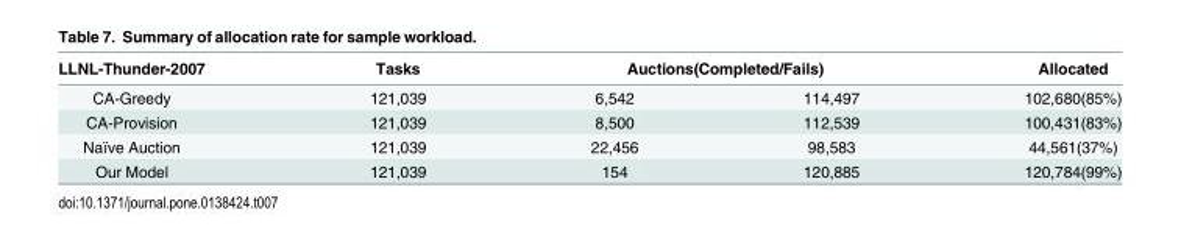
<table><thead><tr><td rowspan="2">LLNL-Thunder-2007 CA-Greedy</td><td rowspan="2">Tasks 121,039</td><td colspan="2">Auctions(Completed/Fails)</td><td rowspan="2">Allocated 102,680(85%)</td></tr><tr><td>6,542</td><td>114,497</td></tr></thead><tbody><tr><td>CA-Provision</td><td>121,039</td><td>8,500</td><td>112,539</td><td>100,431(83%)</td></tr><tr><td>Naïve Auction</td><td>121,039</td><td>22,456</td><td>98,583</td><td>44,561(37%)</td></tr><tr><td>Our Model</td><td>121,039</td><td>154</td><td>120,885</td><td>120,784(99%)</td></tr></tbody></table>